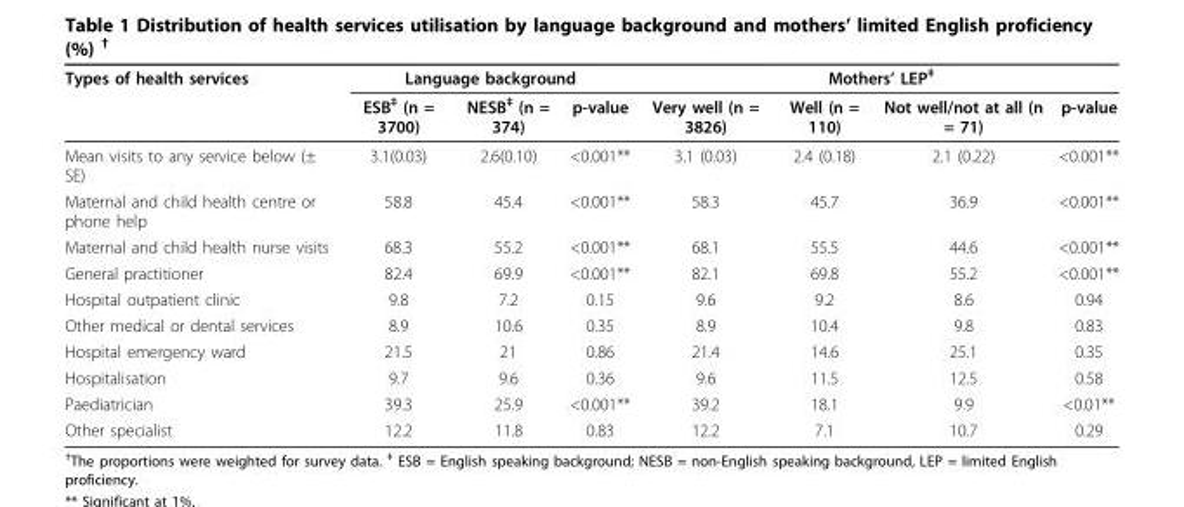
<table><thead><tr><td rowspan="2">Types of health services</td><td colspan="3">Language background</td><td colspan="4">Mothers’ LEP<sup>‡</sup></td></tr><tr><td>ESB<sup>‡</sup> (n = 3700)</td><td>NESB<sup>‡</sup> (n = 374)</td><td>p-value</td><td>Very well (n = 3826)</td><td>Well (n = 110)</td><td>Not well/not at all (n = 71)</td><td>p-value</td></tr></thead><tbody><tr><td>Mean visits to any service below (± SE)</td><td>3.1(0.03)</td><td>2.6(0.10)</td><td>&lt;0.001**</td><td>3.1 (0.03)</td><td>2.4 (0.18)</td><td>2.1 (0.22)</td><td>&lt;0.001**</td></tr><tr><td>Maternal and child health centre or phone help</td><td>58.8</td><td>45.4</td><td>&lt;0.001**</td><td>58.3</td><td>45.7</td><td>36.9</td><td>&lt;0.001**</td></tr><tr><td>Maternal and child health nurse visits</td><td>68.3</td><td>55.2</td><td>&lt;0.001**</td><td>68.1</td><td>55.5</td><td>44.6</td><td>&lt;0.001**</td></tr><tr><td>General practitioner</td><td>82.4</td><td>69.9</td><td>&lt;0.001**</td><td>82.1</td><td>69.8</td><td>55.2</td><td>&lt;0.001**</td></tr><tr><td>Hospital outpatient clinic</td><td>9.8</td><td>7.2</td><td>0.15</td><td>9.6</td><td>9.2</td><td>8.6</td><td>0.94</td></tr><tr><td>Other medical or dental services</td><td>8.9</td><td>10.6</td><td>0.35</td><td>8.9</td><td>10.4</td><td>9.8</td><td>0.83</td></tr><tr><td>Hospital emergency ward</td><td>21.5</td><td>21</td><td>0.86</td><td>21.4</td><td>14.6</td><td>25.1</td><td>0.35</td></tr><tr><td>Hospitalisation</td><td>9.7</td><td>9.6</td><td>0.36</td><td>9.6</td><td>11.5</td><td>12.5</td><td>0.58</td></tr><tr><td>Paediatrician</td><td>39.3</td><td>25.9</td><td>&lt;0.001**</td><td>39.2</td><td>18.1</td><td>9.9</td><td>&lt;0.01**</td></tr><tr><td>Other specialist</td><td>12.2</td><td>11.8</td><td>0.83</td><td>12.2</td><td>7.1</td><td>10.7</td><td>0.29</td></tr></tbody></table>